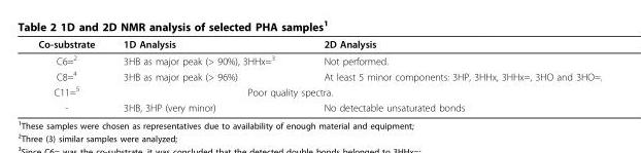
<table><thead><tr><td>Co-substrate</td><td>1D Analysis</td><td>2D Analysis</td></tr></thead><tbody><tr><td>C6=<sup>2</sup></td><td>3HB as major peak (&gt; 90%), 3HHx=<sup>3</sup></td><td>Not performed.</td></tr><tr><td>C8=<sup>4</sup></td><td>3HB as major peak (&gt; 96%)</td><td>At least 5 minor components: 3HP, 3HHx, 3HHx=, 3HO and 3HO=.</td></tr><tr><td>C11=<sup>5</sup></td><td colspan="2">Poor quality spectra.</td></tr><tr><td>-</td><td>3HB, 3HP (very minor)</td><td>No detectable unsaturated bonds</td></tr></tbody></table>